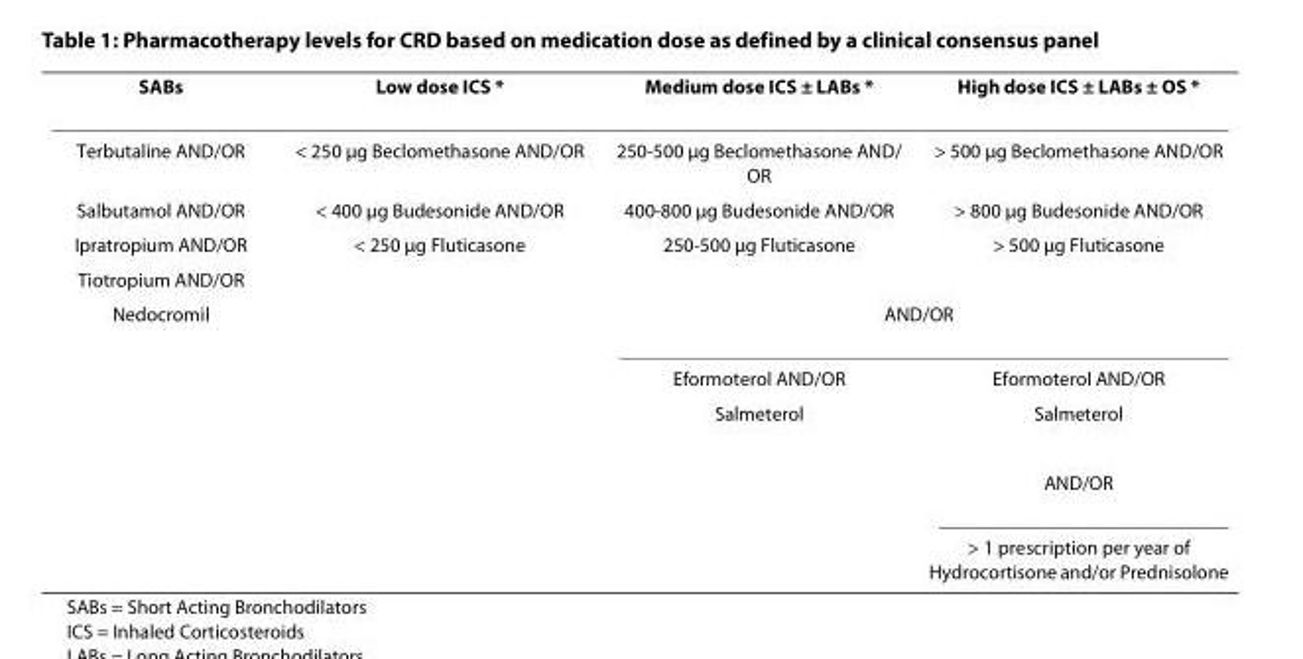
<table><thead><tr><td>SABs</td><td>Low dose ICS *</td><td>Medium dose ICS ± LABs *</td><td>High dose ICS ± LABs ± OS *</td></tr></thead><tbody><tr><td>Terbutaline AND/OR</td><td>&lt; 250 μg Beclomethasone AND/OR</td><td>250-500 μg Beclomethasone AND/ OR</td><td>&gt; 500 μg Beclomethasone AND/OR</td></tr><tr><td>Salbutamol AND/OR</td><td>&lt; 400 μg Budesonide AND/OR</td><td>400-800 μg Budesonide AND/OR</td><td>&gt; 800 μg Budesonide AND/OR</td></tr><tr><td>Ipratropium AND/OR</td><td>&lt; 250 μg Fluticasone</td><td>250-500 μg Fluticasone</td><td>&gt; 500 μg Fluticasone</td></tr><tr><td colspan="4">Tiotropium AND/OR</td></tr><tr><td rowspan="5">Nedocromil</td><td></td><td colspan="2">AND/OR</td></tr><tr><td></td><td>Eformoterol AND/OR</td><td>Eformoterol AND/OR</td></tr><tr><td></td><td>Salmeterol</td><td>Salmeterol</td></tr><tr><td></td><td></td><td>AND/OR</td></tr><tr><td></td><td></td><td>&gt; 1 prescription per year of Hydrocortisone and/or Prednisolone</td></tr></tbody></table>